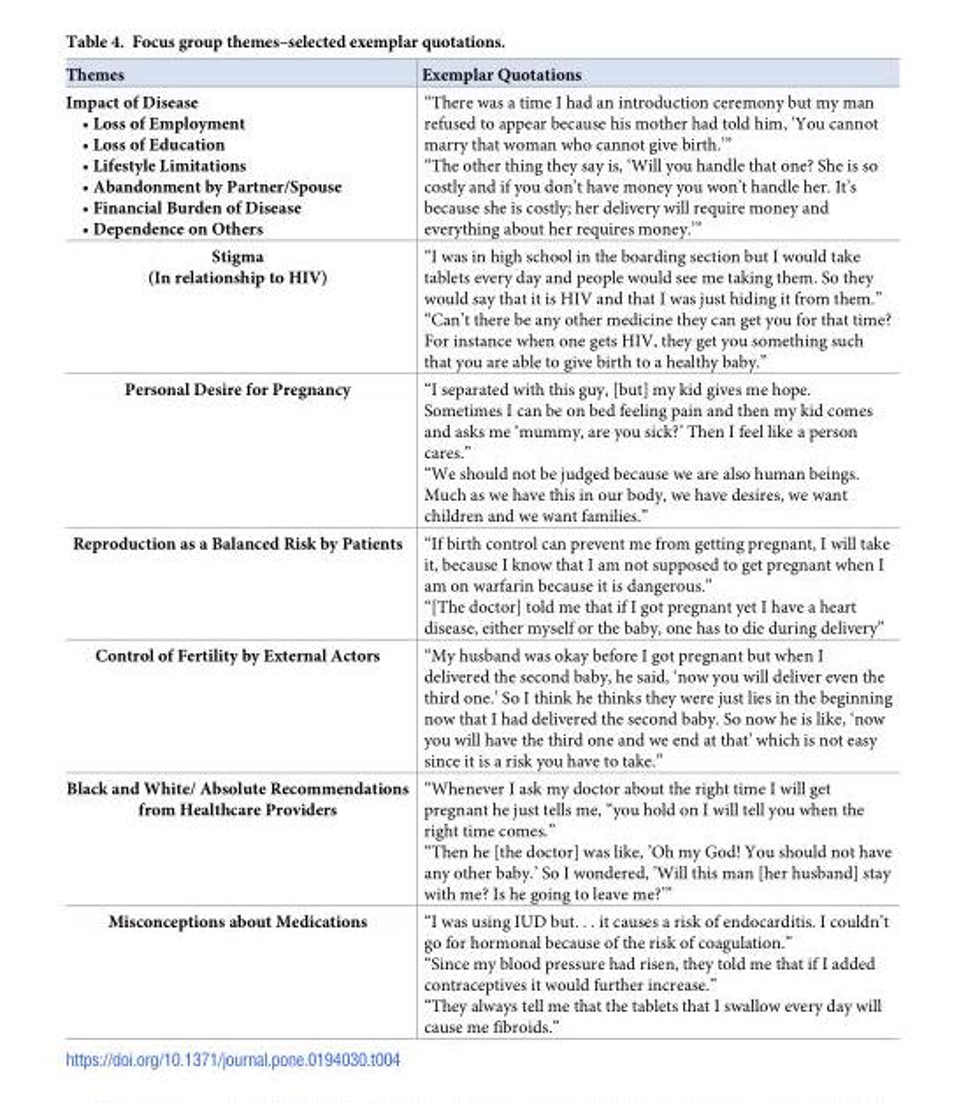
<table><thead><tr><td>Themes</td><td>Exemplar Quotations</td></tr></thead><tbody><tr><td>Impact of Disease • Loss of Employment • Loss of Education • Lifestyle Limitations • Abandonment by Partner/Spouse • Financial Burden of Disease • Dependence on Others</td><td>“There was a time I had an introduction ceremony but my man refused to appear because his mother had told him, ‘You cannot marry that woman who cannot give birth.’” “The other thing they say is, ‘Will you handle that one? She is so costly and if you don’t have money you won’t handle her. It’s because she is costly; her delivery will require money and everything about her requires money.’”</td></tr><tr><td>Stigma (In relationship to HIV)</td><td>“I was in high school in the boarding section but I would take tablets every day and people would see me taking them. So they would say that it is HIV and that I was just hiding it from them.” “Can’t there be any other medicine they can get you for that time? For instance when one gets HIV, they get you something such that you are able to give birth to a healthy baby.”</td></tr><tr><td>Personal Desire for Pregnancy</td><td>“I separated with this guy, [but] my kid gives me hope. Sometimes I can be on bed feeling pain and then my kid comes and asks me ‘mummy, are you sick?’ Then I feel like a person cares.” “We should not be judged because we are also human beings. Much as we have this in our body, we have desires, we want children and we want families.”</td></tr><tr><td>Reproduction as a Balanced Risk by Patients</td><td>“If birth control can prevent me from getting pregnant, I will take it, because I know that I am not supposed to get pregnant when I am on warfarin because it is dangerous.” “[The doctor] told me that if I got pregnant yet I have a heart disease, either myself or the baby, one has to die during delivery”</td></tr><tr><td>Control of Fertility by External Actors</td><td>“My husband was okay before I got pregnant but when I delivered the second baby, he said, ‘now you will deliver even the third one.’ So I think he thinks they were just lies in the beginning now that I had delivered the second baby. So now he is like, ‘now you will have the third one and we end at that’ which is not easy since it is a risk you have to take.”</td></tr><tr><td>Black and White/ Absolute Recommendations from Healthcare Providers</td><td>“Whenever I ask my doctor about the right time I will get pregnant he just tells me, “you hold on I will tell you when the right time comes.” “Then he [the doctor] was like, ’Oh my God! You should not have any other baby.’ So I wondered, ’Will this man [her husband] stay with me? Is he going to leave me?’”</td></tr><tr><td>Misconceptions about Medications</td><td>“I was using IUD but. . . it causes a risk of endocarditis. I couldn’t go for hormonal because of the risk of coagulation.” “Since my blood pressure had risen, they told me that if I added contraceptives it would further increase.” “They always tell me that the tablets that I swallow every day will cause me fibroids.”</td></tr></tbody></table>